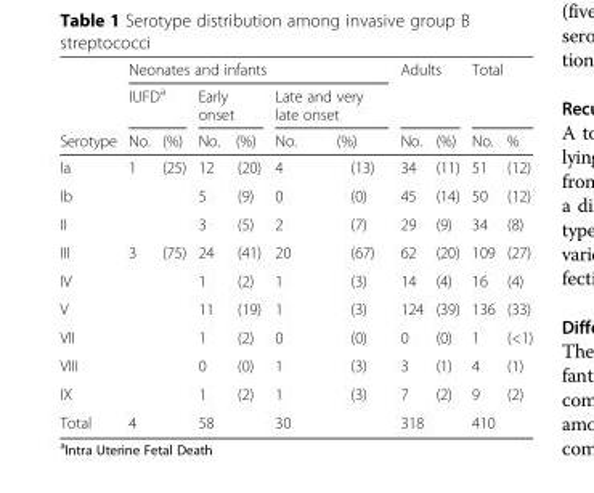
<table><thead><tr><td rowspan="3">Serotype</td><td colspan="6">Neonates and infants</td><td rowspan="2" colspan="2">Adults</td><td rowspan="2" colspan="2">Total</td></tr><tr><td colspan="2">IUFD<sup>a</sup></td><td colspan="2">Early onset</td><td colspan="2">Late and very late onset</td></tr><tr><td>No.</td><td>(%)</td><td>No.</td><td>(%)</td><td>No.</td><td>(%)</td><td>No.</td><td>(%)</td><td>No.</td><td>%</td></tr></thead><tbody><tr><td>Ia</td><td>1</td><td>(25)</td><td>12</td><td>(20)</td><td>4</td><td>(13)</td><td>34</td><td>(11)</td><td>51</td><td>(12)</td></tr><tr><td>Ib</td><td></td><td></td><td>5</td><td>(9)</td><td>0</td><td>(0)</td><td>45</td><td>(14)</td><td>50</td><td>(12)</td></tr><tr><td>II</td><td></td><td></td><td>3</td><td>(5)</td><td>2</td><td>(7)</td><td>29</td><td>(9)</td><td>34</td><td>(8)</td></tr><tr><td>III</td><td>3</td><td>(75)</td><td>24</td><td>(41)</td><td>20</td><td>(67)</td><td>62</td><td>(20)</td><td>109</td><td>(27)</td></tr><tr><td>IV</td><td></td><td></td><td>1</td><td>(2)</td><td>1</td><td>(3)</td><td>14</td><td>(4)</td><td>16</td><td>(4)</td></tr><tr><td>V</td><td></td><td></td><td>11</td><td>(19)</td><td>1</td><td>(3)</td><td>124</td><td>(39)</td><td>136</td><td>(33)</td></tr><tr><td>VII</td><td></td><td></td><td>1</td><td>(2)</td><td>0</td><td>(0)</td><td>0</td><td>(0)</td><td>1</td><td>(&lt;1)</td></tr><tr><td>VIII</td><td></td><td></td><td>0</td><td>(0)</td><td>1</td><td>(3)</td><td>3</td><td>(1)</td><td>4</td><td>(1)</td></tr><tr><td>IX</td><td></td><td></td><td>1</td><td>(2)</td><td>1</td><td>(3)</td><td>7</td><td>(2)</td><td>9</td><td>(2)</td></tr><tr><td>Total</td><td colspan="2">4</td><td colspan="2">58</td><td colspan="2">30</td><td colspan="2">318</td><td colspan="2">410</td></tr></tbody></table>